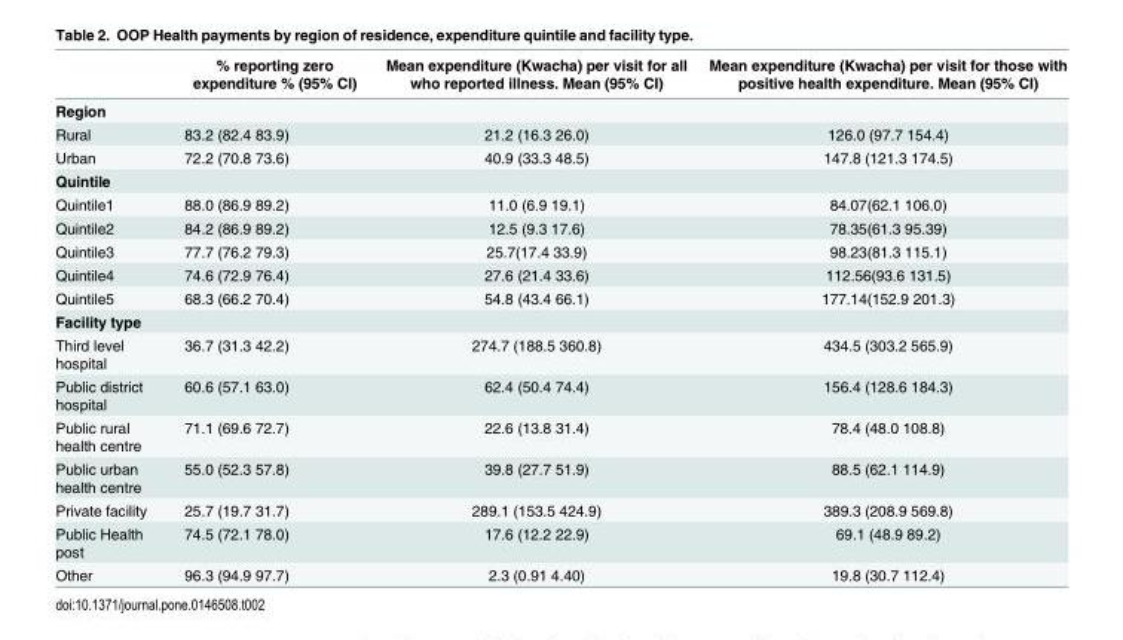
<table><thead><tr><td></td><td>% reporting zero expenditure % (95% CI)</td><td>Mean expenditure (Kwacha) per visit for all who reported illness. Mean (95% CI)</td><td>Mean expenditure (Kwacha) per visit for those with positive health expenditure. Mean (95% CI)</td></tr></thead><tbody><tr><td colspan="4">Region</td></tr><tr><td>Rural</td><td>83.2 (82.4 83.9)</td><td>21.2 (16.3 26.0)</td><td>126.0 (97.7 154.4)</td></tr><tr><td>Urban</td><td>72.2 (70.8 73.6)</td><td>40.9 (33.3 48.5)</td><td>147.8 (121.3 174.5)</td></tr><tr><td colspan="4">Quintile</td></tr><tr><td>Quintile1</td><td>88.0 (86.9 89.2)</td><td>11.0 (6.9 19.1)</td><td>84.07(62.1 106.0)</td></tr><tr><td>Quintile2</td><td>84.2 (86.9 89.2)</td><td>12.5 (9.3 17.6)</td><td>78.35(61.3 95.39)</td></tr><tr><td>Quintile3</td><td>77.7 (76.2 79.3)</td><td>25.7(17.4 33.9)</td><td>98.23(81.3 115.1)</td></tr><tr><td>Quintile4</td><td>74.6 (72.9 76.4)</td><td>27.6 (21.4 33.6)</td><td>112.56(93.6 131.5)</td></tr><tr><td>Quintile5</td><td>68.3 (66.2 70.4)</td><td>54.8 (43.4 66.1)</td><td>177.14(152.9 201.3)</td></tr><tr><td colspan="4">Facility type</td></tr><tr><td>Third level hospital</td><td>36.7 (31.3 42.2)</td><td>274.7 (188.5 360.8)</td><td>434.5 (303.2 565.9)</td></tr><tr><td>Public district hospital</td><td>60.6 (57.1 63.0)</td><td>62.4 (50.4 74.4)</td><td>156.4 (128.6 184.3)</td></tr><tr><td>Public rural health centre</td><td>71.1 (69.6 72.7)</td><td>22.6 (13.8 31.4)</td><td>78.4 (48.0 108.8)</td></tr><tr><td>Public urban health centre</td><td>55.0 (52.3 57.8)</td><td>39.8 (27.7 51.9)</td><td>88.5 (62.1 114.9)</td></tr><tr><td>Private facility</td><td>25.7 (19.7 31.7)</td><td>289.1 (153.5 424.9)</td><td>389.3 (208.9 569.8)</td></tr><tr><td>Public Health post</td><td>74.5 (72.1 78.0)</td><td>17.6 (12.2 22.9)</td><td>69.1 (48.9 89.2)</td></tr><tr><td>Other</td><td>96.3 (94.9 97.7)</td><td>2.3 (0.91 4.40)</td><td>19.8 (30.7 112.4)</td></tr></tbody></table>